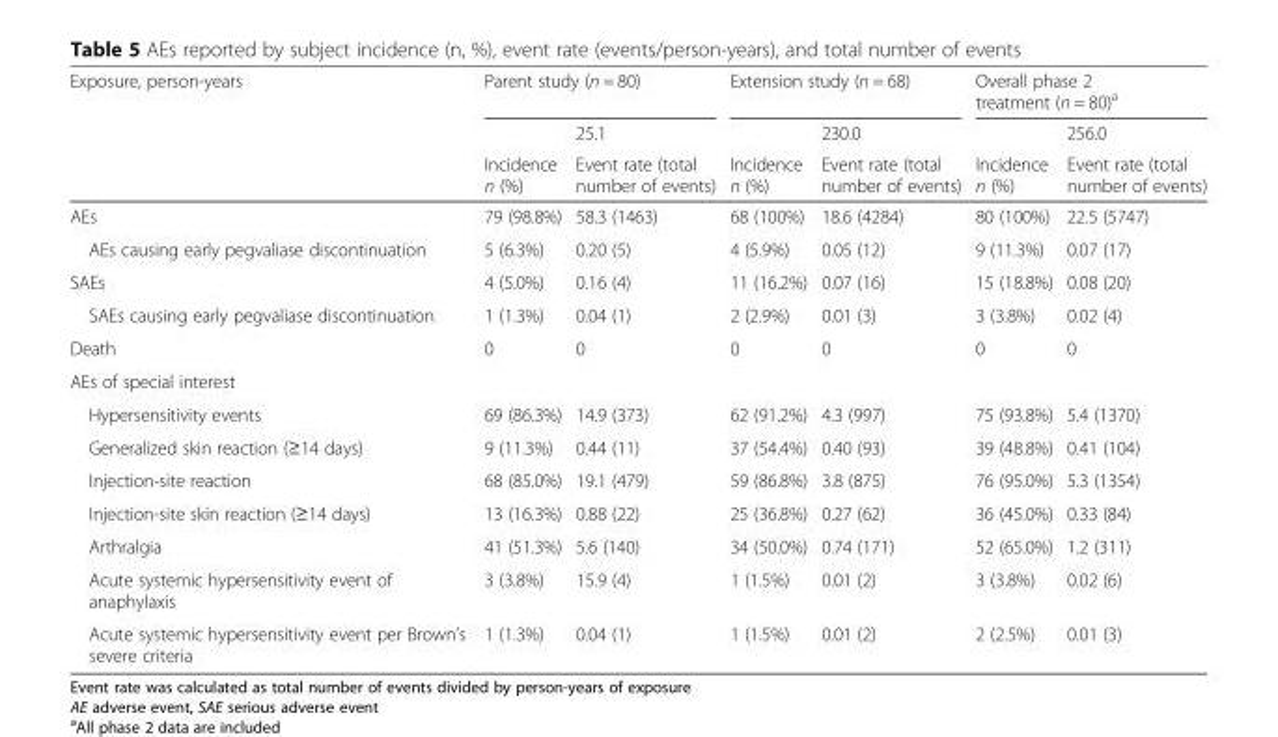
<table><thead><tr><td rowspan="3">Exposure, person-years</td><td colspan="2">Parent study (n = 80)</td><td colspan="2">Extension study (n = 68)</td><td colspan="2">Overall phase 2 treatment (n = 80)<sup>a</sup></td></tr><tr><td rowspan="2">Incidence n (%)</td><td rowspan="2">25.1 Event rate (total number of events)</td><td rowspan="2">Incidence n (%)</td><td rowspan="2">230.0 Event rate (total number of events)</td><td rowspan="2">Incidence n (%)</td><td rowspan="2">256.0 Event rate (total number of events)</td></tr><tr></tr></thead><tbody><tr><td>AEs</td><td>79 (98.8%)</td><td>58.3 (1463)</td><td>68 (100%)</td><td>18.6 (4284)</td><td>80 (100%)</td><td>22.5 (5747)</td></tr><tr><td>AEs causing early pegvaliase discontinuation</td><td>5 (6.3%)</td><td>0.20 (5)</td><td>4 (5.9%)</td><td>0.05 (12)</td><td>9 (11.3%)</td><td>0.07 (17)</td></tr><tr><td>SAEs</td><td>4 (5.0%)</td><td>0.16 (4)</td><td>11 (16.2%)</td><td>0.07 (16)</td><td>15 (18.8%)</td><td>0.08 (20)</td></tr><tr><td>SAEs causing early pegvaliase discontinuation</td><td>1 (1.3%)</td><td>0.04 (1)</td><td>2 (2.9%)</td><td>0.01 (3)</td><td>3 (3.8%)</td><td>0.02 (4)</td></tr><tr><td>Death</td><td>0</td><td>0</td><td>0</td><td>0</td><td>0</td><td>0</td></tr><tr><td colspan="7">AEs of special interest</td></tr><tr><td>Hypersensitivity events</td><td>69 (86.3%)</td><td>14.9 (373)</td><td>62 (91.2%)</td><td>4.3 (997)</td><td>75 (93.8%)</td><td>5.4 (1370)</td></tr><tr><td>Generalized skin reaction (≥14 days)</td><td>9 (11.3%)</td><td>0.44 (11)</td><td>37 (54.4%)</td><td>0.40 (93)</td><td>39 (48.8%)</td><td>0.41 (104)</td></tr><tr><td>Injection-site reaction</td><td>68 (85.0%)</td><td>19.1 (479)</td><td>59 (86.8%)</td><td>3.8 (875)</td><td>76 (95.0%)</td><td>5.3 (1354)</td></tr><tr><td>Injection-site skin reaction (≥14 days)</td><td>13 (16.3%)</td><td>0.88 (22)</td><td>25 (36.8%)</td><td>0.27 (62)</td><td>36 (45.0%)</td><td>0.33 (84)</td></tr><tr><td>Arthralgia</td><td>41 (51.3%)</td><td>5.6 (140)</td><td>34 (50.0%)</td><td>0.74 (171)</td><td>52 (65.0%)</td><td>1.2 (311)</td></tr><tr><td>Acute systemic hypersensitivity event of anaphylaxis</td><td>3 (3.8%)</td><td>15.9 (4)</td><td>1 (1.5%)</td><td>0.01 (2)</td><td>3 (3.8%)</td><td>0.02 (6)</td></tr><tr><td>Acute systemic hypersensitivity event per Brown’s severe criteria</td><td>1 (1.3%)</td><td>0.04 (1)</td><td>1 (1.5%)</td><td>0.01 (2)</td><td>2 (2.5%)</td><td>0.01 (3)</td></tr></tbody></table>